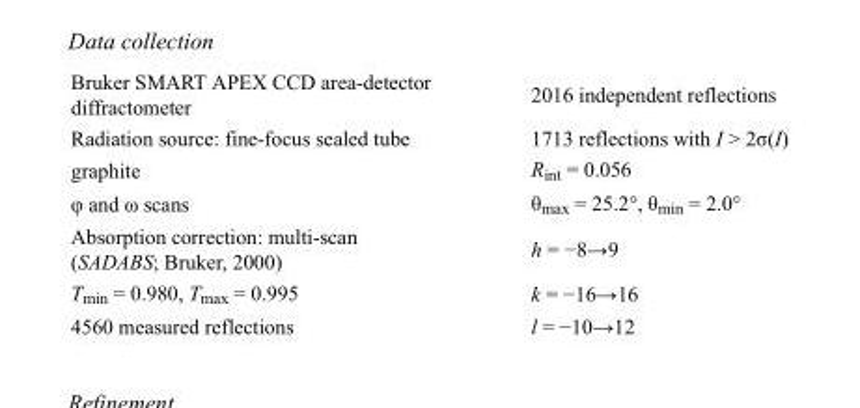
<table><tbody><tr><td>Bruker SMART APEX CCD area-detector diffractometer</td><td>2016 independent reflections</td></tr><tr><td>Radiation source: fine-focus sealed tube</td><td>1713 reflections with I &gt; 2σ(I)</td></tr><tr><td>graphite</td><td>R<sub>int</sub> = 0.056</td></tr><tr><td>φ and ω scans</td><td>θ<sub>max</sub> = 25.2°, θ<sub>min</sub> = 2.0°</td></tr><tr><td>Absorption correction: multi-scan (SADABS; Bruker, 2000)</td><td>h = −8→9</td></tr><tr><td>T<sub>min</sub> = 0.980, T<sub>max</sub> = 0.995</td><td>k = −16→16</td></tr><tr><td>4560 measured reflections</td><td>l = −10→12</td></tr></tbody></table>